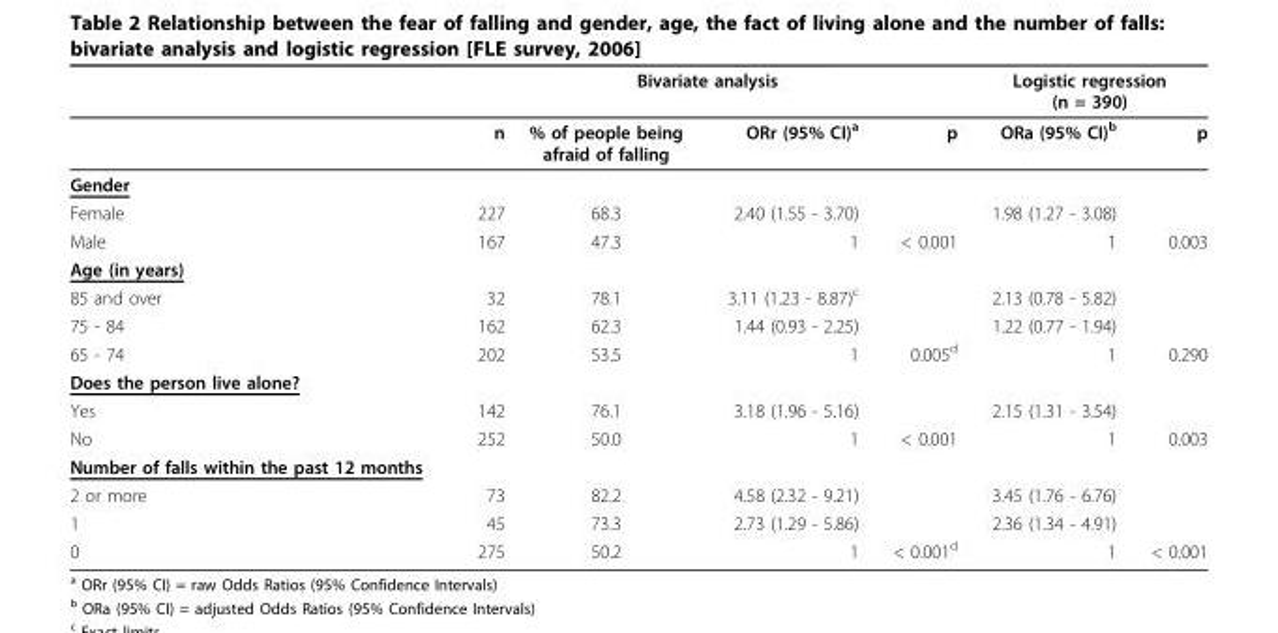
<table><thead><tr><td rowspan="2"></td><td colspan="4">Bivariate analysis</td><td colspan="2">Logistic regression (n = 390)</td></tr><tr><td>n</td><td>% of people being afraid of falling</td><td>ORr (95% CI)<sup>a</sup></td><td>p</td><td>ORa (95% CI)<sup>b</sup></td><td>p</td></tr></thead><tbody><tr><td colspan="7">Gender</td></tr><tr><td>Female</td><td>227</td><td>68.3</td><td>2.40 (1.55 - 3.70)</td><td></td><td>1.98 (1.27 - 3.08)</td><td></td></tr><tr><td>Male</td><td>167</td><td>47.3</td><td>1</td><td>&lt; 0.001</td><td>1</td><td>0.003</td></tr><tr><td colspan="7">Age (in years)</td></tr><tr><td>85 and over</td><td>32</td><td>78.1</td><td>3.11 (1.23 - 8.87)<sup>c</sup></td><td></td><td>2.13 (0.78 - 5.82)</td><td></td></tr><tr><td>75 - 84</td><td>162</td><td>62.3</td><td>1.44 (0.93 - 2.25)</td><td></td><td>1.22 (0.77 - 1.94)</td><td></td></tr><tr><td>65 - 74</td><td>202</td><td>53.5</td><td>1</td><td>0.005<sup>d</sup></td><td>1</td><td>0.290</td></tr><tr><td colspan="7">Does the person live alone?</td></tr><tr><td>Yes</td><td>142</td><td>76.1</td><td>3.18 (1.96 - 5.16)</td><td></td><td>2.15 (1.31 - 3.54)</td><td></td></tr><tr><td>No</td><td>252</td><td>50.0</td><td>1</td><td>&lt; 0.001</td><td>1</td><td>0.003</td></tr><tr><td colspan="7">Number of falls within the past 12 months</td></tr><tr><td>2 or more</td><td>73</td><td>82.2</td><td>4.58 (2.32 - 9.21)</td><td></td><td>3.45 (1.76 - 6.76)</td><td></td></tr><tr><td>1</td><td>45</td><td>73.3</td><td>2.73 (1.29 - 5.86)</td><td></td><td>2.36 (1.34 - 4.91)</td><td></td></tr><tr><td>0</td><td>275</td><td>50.2</td><td>1</td><td>&lt; 0.001<sup>d</sup></td><td>1</td><td>&lt; 0.001</td></tr></tbody></table>